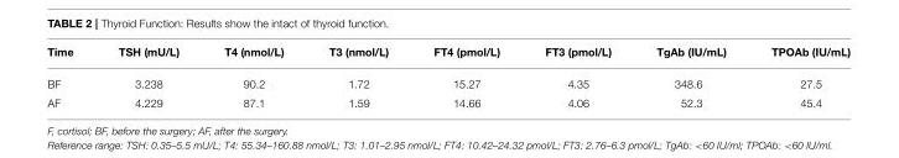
<table><thead><tr><td>Time</td><td>TSH (mU/L)</td><td>T4 (nmol/L)</td><td>T3 (nmol/L)</td><td>FT4 (pmol/L)</td><td>FT3 (pmol/L)</td><td>TgAb (IU/mL)</td><td>TPOAb (IU/mL)</td></tr></thead><tbody><tr><td>BF</td><td>3.238</td><td>90.2</td><td>1.72</td><td>15.27</td><td>4.35</td><td>348.6</td><td>27.5</td></tr><tr><td>AF</td><td>4.229</td><td>87.1</td><td>1.59</td><td>14.66</td><td>4.06</td><td>52.3</td><td>45.4</td></tr></tbody></table>